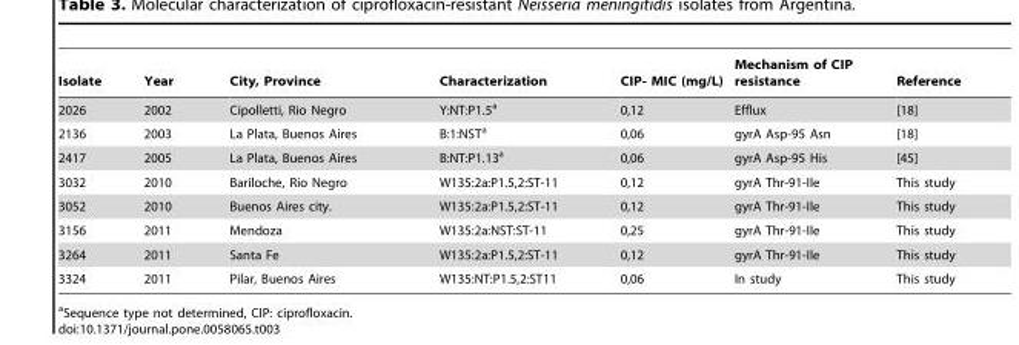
<table><thead><tr><td>Isolate</td><td>Year</td><td>City, Province</td><td>Characterization</td><td>CIP- MIC (mg/L)</td><td>Mechanism of CIP resistance</td><td>Reference</td></tr></thead><tbody><tr><td>2026</td><td>2002</td><td>Cipolletti, Rio Negro</td><td>Y:NT:P1.5<sup>a</sup></td><td>0,12</td><td>Efflux</td><td>[18]</td></tr><tr><td>2136</td><td>2003</td><td>La Plata, Buenos Aires</td><td>B:1:NST<sup>a</sup></td><td>0,06</td><td>gyrA Asp-95 Asn</td><td>[18]</td></tr><tr><td>2417</td><td>2005</td><td>La Plata, Buenos Aires</td><td>B:NT:P1.13<sup>a</sup></td><td>0,06</td><td>gyrA Asp-95 His</td><td>[45]</td></tr><tr><td>3032</td><td>2010</td><td>Bariloche, Rio Negro</td><td>W135:2a:P1.5,2:ST-11</td><td>0,12</td><td>gyrA Thr-91-Ile</td><td>This study</td></tr><tr><td>3052</td><td>2010</td><td>Buenos Aires city.</td><td>W135:2a:P1.5,2:ST-11</td><td>0,12</td><td>gyrA Thr-91-Ile</td><td>This study</td></tr><tr><td>3156</td><td>2011</td><td>Mendoza</td><td>W135:2a:NST:ST-11</td><td>0,25</td><td>gyrA Thr-91-Ile</td><td>This study</td></tr><tr><td>3264</td><td>2011</td><td>Santa Fe</td><td>W135:2a:P1.5,2:ST-11</td><td>0,12</td><td>gyrA Thr-91-Ile</td><td>This study</td></tr><tr><td>3324</td><td>2011</td><td>Pilar, Buenos Aires</td><td>W135:NT:P1.5,2:ST11</td><td>0,06</td><td>In study</td><td>This study</td></tr></tbody></table>